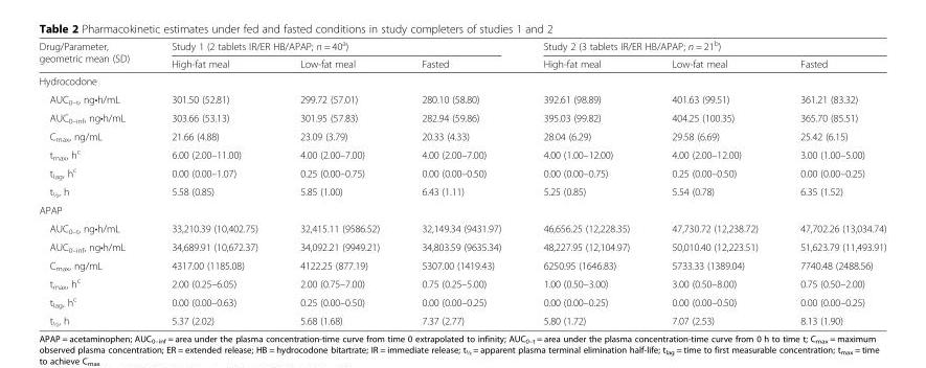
<table><thead><tr><td rowspan="2">Drug/Parameter, geometric mean (SD)</td><td colspan="3">Study 1 (2 tablets IR/ER HB/APAP; n = 40<sup>a</sup>)</td><td colspan="3">Study 2 (3 tablets IR/ER HB/APAP; n = 21<sup>b</sup>)</td></tr><tr><td>High-fat meal</td><td>Low-fat meal</td><td>Fasted</td><td>High-fat meal</td><td>Low-fat meal</td><td>Fasted</td></tr></thead><tbody><tr><td colspan="7">Hydrocodone</td></tr><tr><td>AUC<sub>0–t</sub>, ng•h/mL</td><td>301.50 (52.81)</td><td>299.72 (57.01)</td><td>280.10 (58.80)</td><td>392.61 (98.89)</td><td>401.63 (99.51)</td><td>361.21 (83.32)</td></tr><tr><td>AUC<sub>0–inf</sub>, ng•h/mL</td><td>303.66 (53.13)</td><td>301.95 (57.83)</td><td>282.94 (59.86)</td><td>395.03 (99.82)</td><td>404.25 (100.35)</td><td>365.70 (85.51)</td></tr><tr><td>C<sub>max</sub>, ng/mL</td><td>21.66 (4.88)</td><td>23.09 (3.79)</td><td>20.33 (4.33)</td><td>28.04 (6.29)</td><td>29.58 (6.69)</td><td>25.42 (6.15)</td></tr><tr><td>t<sub>max</sub>, h<sup>c</sup></td><td>6.00 (2.00–11.00)</td><td>4.00 (2.00–7.00)</td><td>4.00 (2.00–7.00)</td><td>4.00 (1.00–12.00)</td><td>4.00 (2.00–12.00)</td><td>3.00 (1.00–5.00)</td></tr><tr><td>t<sub>lag</sub>, h<sup>c</sup></td><td>0.00 (0.00–1.07)</td><td>0.25 (0.00–0.75)</td><td>0.00 (0.00–0.50)</td><td>0.00 (0.00–0.75)</td><td>0.25 (0.00–0.50)</td><td>0.00 (0.00–0.25)</td></tr><tr><td>t<sub>½</sub>, h</td><td>5.58 (0.85)</td><td>5.85 (1.00)</td><td>6.43 (1.11)</td><td>5.25 (0.85)</td><td>5.54 (0.78)</td><td>6.35 (1.52)</td></tr><tr><td colspan="7">APAP</td></tr><tr><td>AUC<sub>0–t</sub>, ng•h/mL</td><td>33,210.39 (10,402.75)</td><td>32,415.11 (9586.52)</td><td>32,149.34 (9431.97)</td><td>46,656.25 (12,228.35)</td><td>47,730.72 (12,238.72)</td><td>47,702.26 (13,034.74)</td></tr><tr><td>AUC<sub>0–inf</sub>, ng•h/mL</td><td>34,689.91 (10,672.37)</td><td>34,092.21 (9949.21)</td><td>34,803.59 (9635.34)</td><td>48,227.95 (12,104.97)</td><td>50,010.40 (12,223.51)</td><td>51,623.79 (11,493.91)</td></tr><tr><td>C<sub>max</sub>, ng/mL</td><td>4317.00 (1185.08)</td><td>4122.25 (877.19)</td><td>5307.00 (1419.43)</td><td>6250.95 (1646.83)</td><td>5733.33 (1389.04)</td><td>7740.48 (2488.56)</td></tr><tr><td>t<sub>max</sub>, h<sup>c</sup></td><td>2.00 (0.25–6.05)</td><td>2.00 (0.75–7.00)</td><td>0.75 (0.25–5.00)</td><td>1.00 (0.50–3.00)</td><td>3.00 (0.50–8.00)</td><td>0.75 (0.50–2.00)</td></tr><tr><td>t<sub>lag</sub>, h<sup>c</sup></td><td>0.00 (0.00–0.63)</td><td>0.25 (0.00–0.50)</td><td>0.00 (0.00–0.25)</td><td>0.00 (0.00–0.25)</td><td>0.00 (0.00–0.50)</td><td>0.00 (0.00–0.25)</td></tr><tr><td>t<sub>½</sub>, h</td><td>5.37 (2.02)</td><td>5.68 (1.68)</td><td>7.37 (2.77)</td><td>5.80 (1.72)</td><td>7.07 (2.53)</td><td>8.13 (1.90)</td></tr></tbody></table>